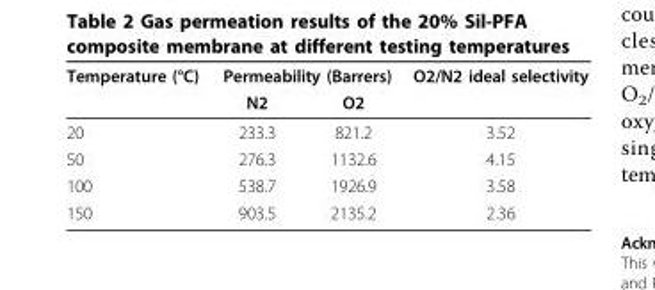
<table><thead><tr><td rowspan="2">Temperature (°C)</td><td colspan="2">Permeability (Barrers)</td><td rowspan="2">O2/N2 ideal selectivity</td></tr><tr><td>N2</td><td>O2</td></tr></thead><tbody><tr><td>20</td><td>233.3</td><td>821.2</td><td>3.52</td></tr><tr><td>50</td><td>276.3</td><td>1132.6</td><td>4.15</td></tr><tr><td>100</td><td>538.7</td><td>1926.9</td><td>3.58</td></tr><tr><td>150</td><td>903.5</td><td>2135.2</td><td>2.36</td></tr></tbody></table>